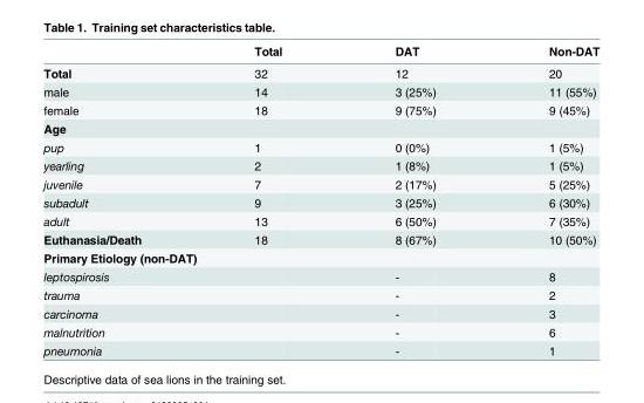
<table><thead><tr><td></td><td>Total</td><td>DAT</td><td>Non-DAT</td></tr></thead><tbody><tr><td>Total</td><td>32</td><td>12</td><td>20</td></tr><tr><td>male</td><td>14</td><td>3 (25%)</td><td>11 (55%)</td></tr><tr><td>female</td><td>18</td><td>9 (75%)</td><td>9 (45%)</td></tr><tr><td colspan="4">Age</td></tr><tr><td>pup</td><td>1</td><td>0 (0%)</td><td>1 (5%)</td></tr><tr><td>yearling</td><td>2</td><td>1 (8%)</td><td>1 (5%)</td></tr><tr><td>juvenile</td><td>7</td><td>2 (17%)</td><td>5 (25%)</td></tr><tr><td>subadult</td><td>9</td><td>3 (25%)</td><td>6 (30%)</td></tr><tr><td>adult</td><td>13</td><td>6 (50%)</td><td>7 (35%)</td></tr><tr><td>Euthanasia/Death</td><td>18</td><td>8 (67%)</td><td>10 (50%)</td></tr><tr><td colspan="4">Primary Etiology (non-DAT)</td></tr><tr><td>leptospirosis</td><td></td><td>-</td><td>8</td></tr><tr><td>trauma</td><td></td><td>-</td><td>2</td></tr><tr><td>carcinoma</td><td></td><td>-</td><td>3</td></tr><tr><td>malnutrition</td><td></td><td>-</td><td>6</td></tr><tr><td>pneumonia</td><td></td><td>-</td><td>1</td></tr></tbody></table>